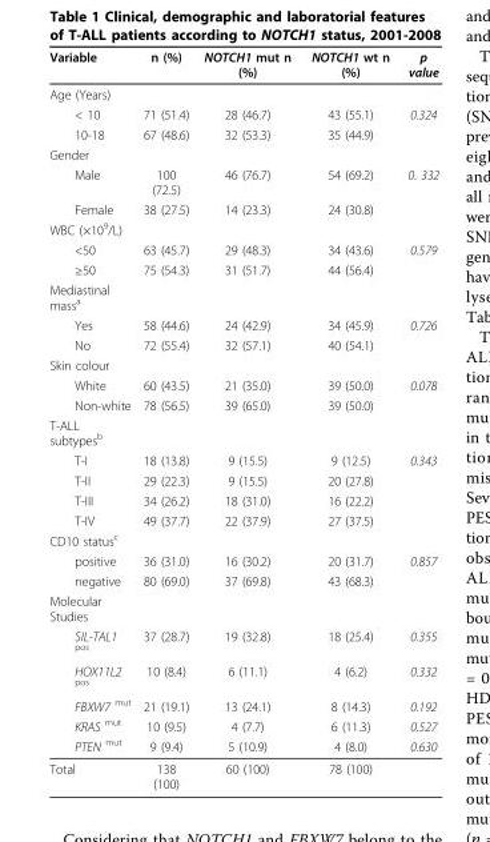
<table><thead><tr><td>Variable</td><td>n (%)</td><td>NOTCH1 mut n (%)</td><td>NOTCH1 wt n (%)</td><td>p value</td></tr></thead><tbody><tr><td colspan="5">Age (Years)</td></tr><tr><td>&lt; 10</td><td>71 (51.4)</td><td>28 (46.7)</td><td>43 (55.1)</td><td>0.324</td></tr><tr><td>10-18</td><td>67 (48.6)</td><td>32 (53.3)</td><td>35 (44.9)</td><td></td></tr><tr><td colspan="5">Gender</td></tr><tr><td>Male</td><td>100 (72.5)</td><td>46 (76.7)</td><td>54 (69.2)</td><td>0. 332</td></tr><tr><td>Female</td><td>38 (27.5)</td><td>14 (23.3)</td><td>24 (30.8)</td><td></td></tr><tr><td colspan="5">WBC (×10<sup>9</sup>/L)</td></tr><tr><td>&lt;50</td><td>63 (45.7)</td><td>29 (48.3)</td><td>34 (43.6)</td><td>0.579</td></tr><tr><td>≥50</td><td>75 (54.3)</td><td>31 (51.7)</td><td>44 (56.4)</td><td></td></tr><tr><td colspan="5">Mediastinal mass<sup>a</sup></td></tr><tr><td>Yes</td><td>58 (44.6)</td><td>24 (42.9)</td><td>34 (45.9)</td><td>0.726</td></tr><tr><td>No</td><td>72 (55.4)</td><td>32 (57.1)</td><td>40 (54.1)</td><td></td></tr><tr><td colspan="5">Skin colour</td></tr><tr><td>White</td><td>60 (43.5)</td><td>21 (35.0)</td><td>39 (50.0)</td><td>0.078</td></tr><tr><td>Non-white</td><td>78 (56.5)</td><td>39 (65.0)</td><td>39 (50.0)</td><td></td></tr><tr><td colspan="5">T-ALL subtypes<sup>b</sup></td></tr><tr><td>T-I</td><td>18 (13.8)</td><td>9 (15.5)</td><td>9 (12.5)</td><td>0.343</td></tr><tr><td>T-II</td><td>29 (22.3)</td><td>9 (15.5)</td><td>20 (27.8)</td><td></td></tr><tr><td>T-III</td><td>34 (26.2)</td><td>18 (31.0)</td><td>16 (22.2)</td><td></td></tr><tr><td>T-IV</td><td>49 (37.7)</td><td>22 (37.9)</td><td>27 (37.5)</td><td></td></tr><tr><td colspan="5">CD10 status<sup>c</sup></td></tr><tr><td>positive</td><td>36 (31.0)</td><td>16 (30.2)</td><td>20 (31.7)</td><td>0.857</td></tr><tr><td>negative</td><td>80 (69.0)</td><td>37 (69.8)</td><td>43 (68.3)</td><td></td></tr><tr><td colspan="5">Molecular Studies</td></tr><tr><td>SIL-TAL1 <sup>pos</sup></td><td>37 (28.7)</td><td>19 (32.8)</td><td>18 (25.4)</td><td>0.355</td></tr><tr><td>HOX11L2 <sup>pos</sup></td><td>10 (8.4)</td><td>6 (11.1)</td><td>4 (6.2)</td><td>0.332</td></tr><tr><td>FBXW7 <sup>mut</sup></td><td>21 (19.1)</td><td>13 (24.1)</td><td>8 (14.3)</td><td>0.192</td></tr><tr><td>KRAS <sup>mut</sup></td><td>10 (9.5)</td><td>4 (7.7)</td><td>6 (11.3)</td><td>0.527</td></tr><tr><td>PTEN <sup>mut</sup></td><td>9 (9.4)</td><td>5 (10.9)</td><td>4 (8.0)</td><td>0.630</td></tr><tr><td>Total</td><td>138 (100)</td><td>60 (100)</td><td>78 (100)</td><td></td></tr></tbody></table>